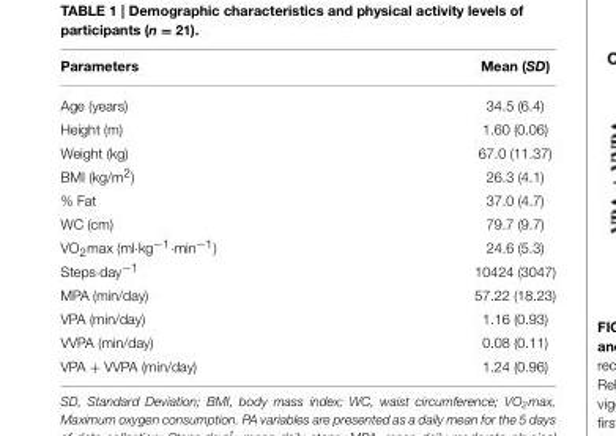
<table><thead><tr><td>Parameters</td><td>Mean (SD)</td></tr></thead><tbody><tr><td>Age (years)</td><td>34.5 (6.4)</td></tr><tr><td>Height (m)</td><td>1.60 (0.06)</td></tr><tr><td>Weight (kg)</td><td>67.0 (11.37)</td></tr><tr><td>BMI (kg/m<sup>2</sup>)</td><td>26.3 (4.1)</td></tr><tr><td>% Fat</td><td>37.0 (4.7)</td></tr><tr><td>WC (cm)</td><td>79.7 (9.7)</td></tr><tr><td>VO<sub>2</sub>max (ml·kg<sup>−1</sup>·min<sup>−1</sup>)</td><td>24.6 (5.3)</td></tr><tr><td>Steps·day<sup>−1</sup></td><td>10424 (3047)</td></tr><tr><td>MPA (min/day)</td><td>57.22 (18.23)</td></tr><tr><td>VPA (min/day)</td><td>1.16 (0.93)</td></tr><tr><td>VVPA (min/day)</td><td>0.08 (0.11)</td></tr><tr><td>VPA + VVPA (min/day)</td><td>1.24 (0.96)</td></tr></tbody></table>